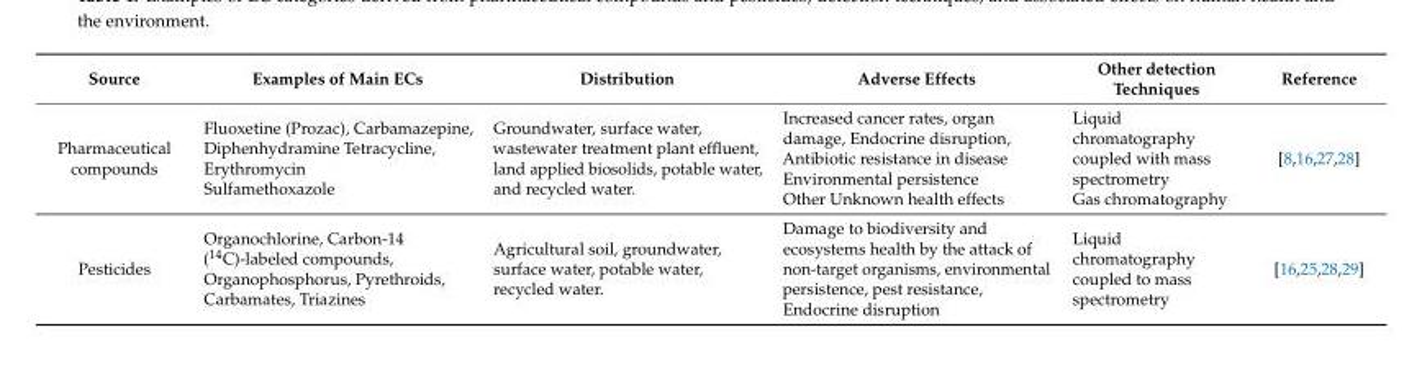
<table><thead><tr><td>Source</td><td>Examples of Main ECs</td><td>Distribution</td><td>Adverse Effects</td><td>Other detection Techniques</td><td>Reference</td></tr></thead><tbody><tr><td>Pharmaceutical compounds</td><td>Fluoxetine (Prozac), Carbamazepine, Diphenhydramine Tetracycline, Erythromycin Sulfamethoxazole</td><td>Groundwater, surface water, wastewater treatment plant effluent, land applied biosolids, potable water, and recycled water.</td><td>Increased cancer rates, organ damage, Endocrine disruption, Antibiotic resistance in disease Environmental persistence Other Unknown health effects</td><td>Liquid chromatography coupled with mass spectrometry Gas chromatography</td><td>[8,16,27,28]</td></tr><tr><td>Pesticides</td><td>Organochlorine, Carbon-14 (<sup>14</sup>C)-labeled compounds, Organophosphorus, Pyrethroids, Carbamates, Triazines</td><td>Agricultural soil, groundwater, surface water, potable water, recycled water.</td><td>Damage to biodiversity and ecosystems health by the attack of non-target organisms, environmental persistence, pest resistance, Endocrine disruption</td><td>Liquid chromatography coupled to mass spectrometry</td><td>[16,25,28,29]</td></tr></tbody></table>